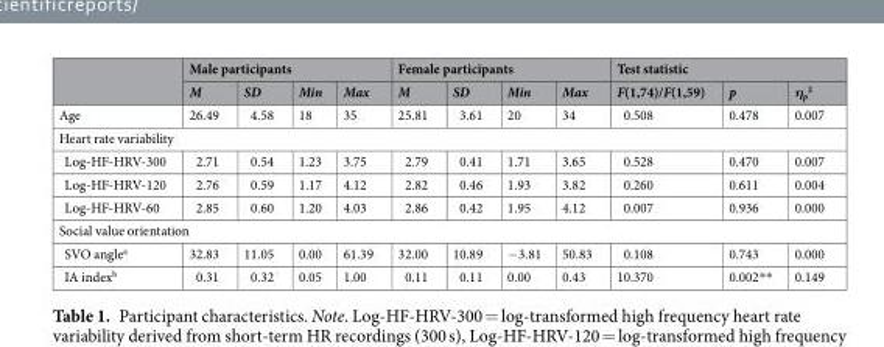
<table><thead><tr><td rowspan="2"></td><td colspan="4">Male participants</td><td colspan="4">Female participants</td><td colspan="3">Test statistic</td></tr><tr><td>M</td><td>SD</td><td>Min</td><td>Max</td><td>M</td><td>SD</td><td>Min</td><td>Max</td><td>F(1,74)/F(1,59)</td><td>p</td><td>η<sub>p</sub> <sup>2</sup></td></tr></thead><tbody><tr><td>Age</td><td>26.49</td><td>4.58</td><td>18</td><td>35</td><td>25.81</td><td>3.61</td><td>20</td><td>34</td><td>0.508</td><td>0.478</td><td>0.007</td></tr><tr><td colspan="12">Heart rate variability</td></tr><tr><td>Log-HF-HRV-300</td><td>2.71</td><td>0.54</td><td>1.23</td><td>3.75</td><td>2.79</td><td>0.41</td><td>1.71</td><td>3.65</td><td>0.528</td><td>0.470</td><td>0.007</td></tr><tr><td>Log-HF-HRV-120</td><td>2.76</td><td>0.59</td><td>1.17</td><td>4.12</td><td>2.82</td><td>0.46</td><td>1.93</td><td>3.82</td><td>0.260</td><td>0.611</td><td>0.004</td></tr><tr><td>Log-HF-HRV-60</td><td>2.85</td><td>0.60</td><td>1.20</td><td>4.03</td><td>2.86</td><td>0.42</td><td>1.95</td><td>4.12</td><td>0.007</td><td>0.936</td><td>0.000</td></tr><tr><td colspan="12">Social value orientation</td></tr><tr><td>SVO angle<sup>a</sup></td><td>32.83</td><td>11.05</td><td>0.00</td><td>61.39</td><td>32.00</td><td>10.89</td><td>−3.81</td><td>50.83</td><td>0.108</td><td>0.743</td><td>0.000</td></tr><tr><td>IA index<sup>b</sup></td><td>0.31</td><td>0.32</td><td>0.05</td><td>1.00</td><td>0.11</td><td>0.11</td><td>0.00</td><td>0.43</td><td>10.370</td><td>0.002**</td><td>0.149</td></tr></tbody></table>